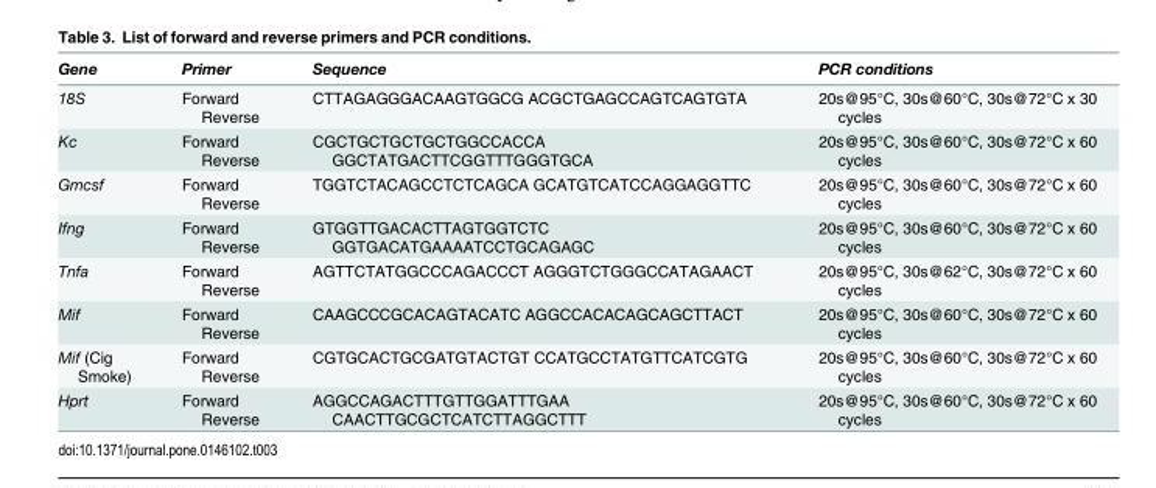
<table><thead><tr><td>Gene</td><td>Primer</td><td>Sequence</td><td>PCR conditions</td></tr></thead><tbody><tr><td>18S</td><td>Forward Reverse</td><td>CTTAGAGGGACAAGTGGCG ACGCTGAGCCAGTCAGTGTA</td><td>20s@95°C, 30s@60°C, 30s@72°C x 30 cycles</td></tr><tr><td>Kc</td><td>Forward Reverse</td><td>CGCTGCTGCTGCTGGCCACCA GGCTATGACTTCGGTTTGGGTGCA</td><td>20s@95°C, 30s@60°C, 30s@72°C x 60 cycles</td></tr><tr><td>Gmcsf</td><td>Forward Reverse</td><td>TGGTCTACAGCCTCTCAGCA GCATGTCATCCAGGAGGTTC</td><td>20s@95°C, 30s@60°C, 30s@72°C x 60 cycles</td></tr><tr><td>Ifng</td><td>Forward Reverse</td><td>GTGGTTGACACTTAGTGGTCTC GGTGACATGAAAATCCTGCAGAGC</td><td>20s@95°C, 30s@60°C, 30s@72°C x 60 cycles</td></tr><tr><td>Tnfa</td><td>Forward Reverse</td><td>AGTTCTATGGCCCAGACCCT AGGGTCTGGGCCATAGAACT</td><td>20s@95°C, 30s@62°C, 30s@72°C x 60 cycles</td></tr><tr><td>Mif</td><td>Forward Reverse</td><td>CAAGCCCGCACAGTACATC AGGCCACACAGCAGCTTACT</td><td>20s@95°C, 30s@60°C, 30s@72°C x 60 cycles</td></tr><tr><td>Mif (Cig Smoke)</td><td>Forward Reverse</td><td>CGTGCACTGCGATGTACTGT CCATGCCTATGTTCATCGTG</td><td>20s@95°C, 30s@60°C, 30s@72°C x 60 cycles</td></tr><tr><td>Hprt</td><td>Forward Reverse</td><td>AGGCCAGACTTTGTTGGATTTGAA CAACTTGCGCTCATCTTAGGCTTT</td><td>20s@95°C, 30s@60°C, 30s@72°C x 60 cycles</td></tr></tbody></table>